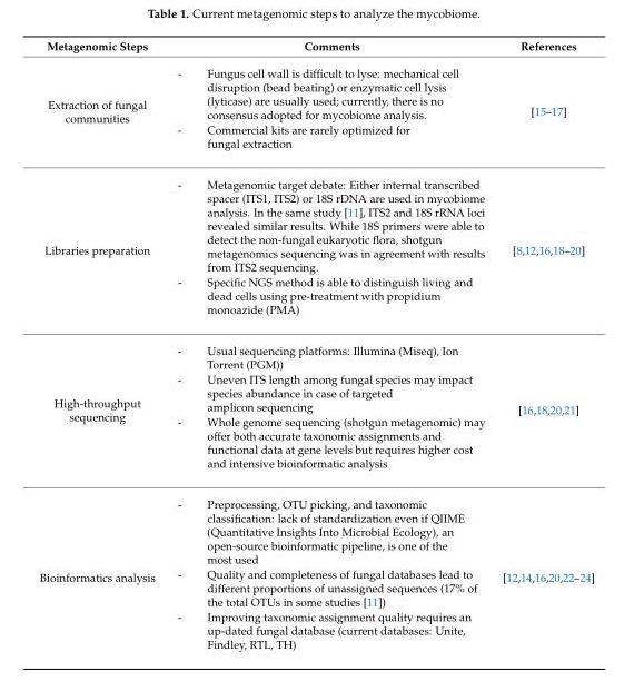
<table><thead><tr><td>Metagenomic Steps</td><td>Comments</td><td>References</td></tr></thead><tbody><tr><td>Extraction of fungal communities</td><td>- Fungus cell wall is difficult to lyse: mechanical cell disruption (bead beating) or enzymatic cell lysis (lyticase) are usually used; currently, there is no consensus adopted for mycobiome analysis. - Commercial kits are rarely optimized for fungal extraction</td><td>[15–17]</td></tr><tr><td>Libraries preparation</td><td>- Metagenomic target debate: Either internal transcribed spacer (ITS1, ITS2) or 18S rDNA are used in mycobiome analysis. In the same study [11], ITS2 and 18S rRNA loci revealed similar results. While 18S primers were able to detect the non-fungal eukaryotic flora, shotgun metagenomics sequencing was in agreement with results from ITS2 sequencing. - Specific NGS method is able to distinguish living and dead cells using pre-treatment with propidium monoazide (PMA)</td><td>[8,12,16,18–20]</td></tr><tr><td>High-throughput sequencing</td><td>- Usual sequencing platforms: Illumina (Miseq), Ion Torrent (PGM)) - Uneven ITS length among fungal species may impact species abundance in case of targeted amplicon sequencing - Whole genome sequencing (shotgun metagenomic) may offer both accurate taxonomic assignments and functional data at gene levels but requires higher cost and intensive bioinformatic analysis</td><td>[16,18,20,21]</td></tr><tr><td>Bioinformatics analysis</td><td>- Preprocessing, OTU picking, and taxonomic classification: lack of standardization even if QIIME (Quantitative Insights Into Microbial Ecology), an open-source bioinformatic pipeline, is one of the most used - Quality and completeness of fungal databases lead to different proportions of unassigned sequences (17% of the total OTUs in some studies [11]) - Improving taxonomic assignment quality requires an up-dated fungal database (current databases: Unite, Findley, RTL, TH)</td><td>[12,14,16,20,22–24]</td></tr></tbody></table>